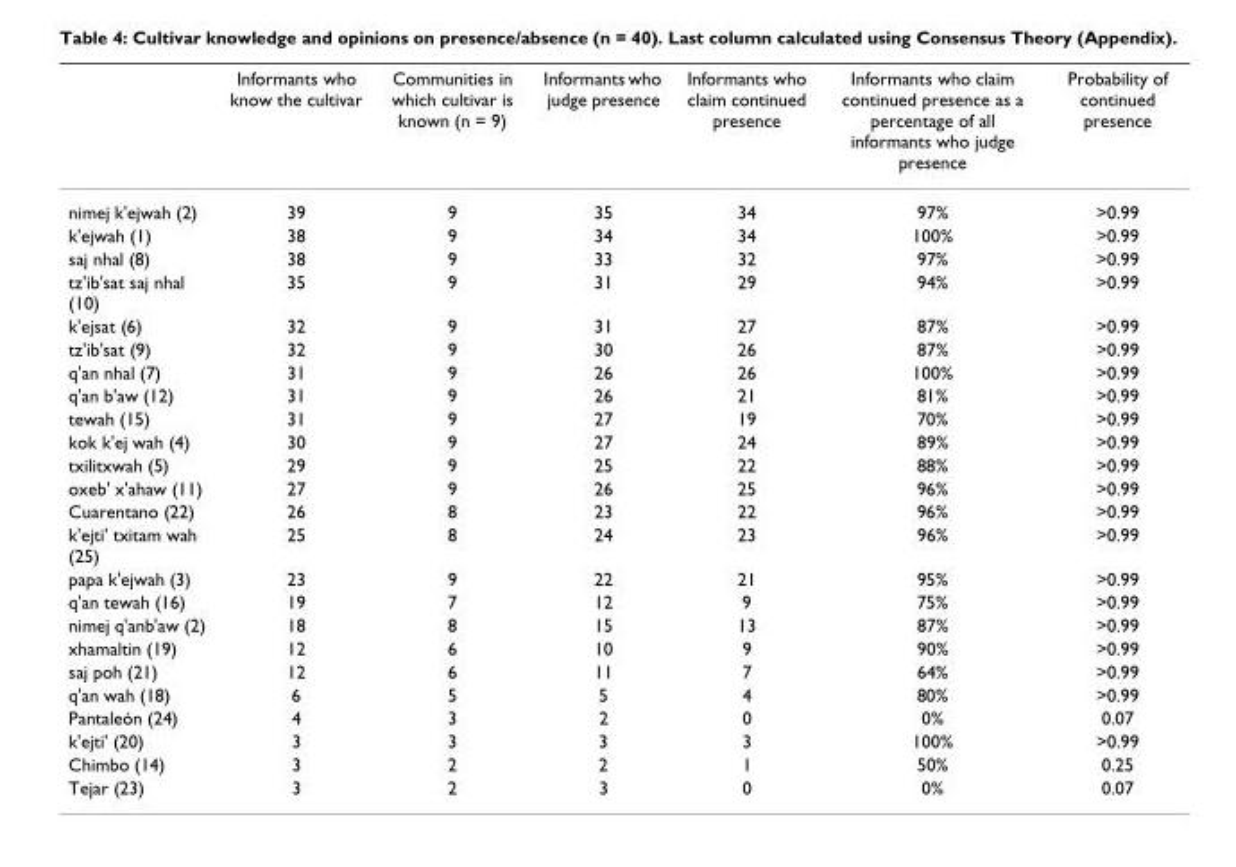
<table><thead><tr><td></td><td>Informants who know the cultivar</td><td>Communities in which cultivar is known (n = 9)</td><td>Informants who judge presence</td><td>Informants who claim continued presence</td><td>Informants who claim continued presence as a percentage of all informants who judge presence</td><td>Probability of continued presence</td></tr></thead><tbody><tr><td>nimej k&#x27;ejwah (2)</td><td>39</td><td>9</td><td>35</td><td>34</td><td>97%</td><td>&gt;0.99</td></tr><tr><td>k&#x27;ejwah (1)</td><td>38</td><td>9</td><td>34</td><td>34</td><td>100%</td><td>&gt;0.99</td></tr><tr><td>saj nhal (8)</td><td>38</td><td>9</td><td>33</td><td>32</td><td>97%</td><td>&gt;0.99</td></tr><tr><td>tz&#x27;ib&#x27;sat saj nhal (10)</td><td>35</td><td>9</td><td>31</td><td>29</td><td>94%</td><td>&gt;0.99</td></tr><tr><td>k&#x27;ejsat (6)</td><td>32</td><td>9</td><td>31</td><td>27</td><td>87%</td><td>&gt;0.99</td></tr><tr><td>tz&#x27;ib&#x27;sat (9)</td><td>32</td><td>9</td><td>30</td><td>26</td><td>87%</td><td>&gt;0.99</td></tr><tr><td>q&#x27;an nhal (7)</td><td>31</td><td>9</td><td>26</td><td>26</td><td>100%</td><td>&gt;0.99</td></tr><tr><td>q&#x27;an b&#x27;aw (12)</td><td>31</td><td>9</td><td>26</td><td>21</td><td>81%</td><td>&gt;0.99</td></tr><tr><td>tewah (15)</td><td>31</td><td>9</td><td>27</td><td>19</td><td>70%</td><td>&gt;0.99</td></tr><tr><td>kok k&#x27;ej wah (4)</td><td>30</td><td>9</td><td>27</td><td>24</td><td>89%</td><td>&gt;0.99</td></tr><tr><td>txilitxwah (5)</td><td>29</td><td>9</td><td>25</td><td>22</td><td>88%</td><td>&gt;0.99</td></tr><tr><td>oxeb&#x27; x&#x27;ahaw (11)</td><td>27</td><td>9</td><td>26</td><td>25</td><td>96%</td><td>&gt;0.99</td></tr><tr><td>Cuarentano (22)</td><td>26</td><td>8</td><td>23</td><td>22</td><td>96%</td><td>&gt;0.99</td></tr><tr><td>k&#x27;ejti&#x27; txitam wah (25)</td><td>25</td><td>8</td><td>24</td><td>23</td><td>96%</td><td>&gt;0.99</td></tr><tr><td>papa k&#x27;ejwah (3)</td><td>23</td><td>9</td><td>22</td><td>21</td><td>95%</td><td>&gt;0.99</td></tr><tr><td>q&#x27;an tewah (16)</td><td>19</td><td>7</td><td>12</td><td>9</td><td>75%</td><td>&gt;0.99</td></tr><tr><td>nimej q&#x27;anb&#x27;aw (2)</td><td>18</td><td>8</td><td>15</td><td>13</td><td>87%</td><td>&gt;0.99</td></tr><tr><td>xhamaltin (19)</td><td>12</td><td>6</td><td>10</td><td>9</td><td>90%</td><td>&gt;0.99</td></tr><tr><td>saj poh (21)</td><td>12</td><td>6</td><td>11</td><td>7</td><td>64%</td><td>&gt;0.99</td></tr><tr><td>q&#x27;an wah (18)</td><td>6</td><td>5</td><td>5</td><td>4</td><td>80%</td><td>&gt;0.99</td></tr><tr><td>Pantaleón (24)</td><td>4</td><td>3</td><td>2</td><td>0</td><td>0%</td><td>0.07</td></tr><tr><td>k&#x27;ejti&#x27; (20)</td><td>3</td><td>3</td><td>3</td><td>3</td><td>100%</td><td>&gt;0.99</td></tr><tr><td>Chimbo (14)</td><td>3</td><td>2</td><td>2</td><td>1</td><td>50%</td><td>0.25</td></tr><tr><td>Tejar (23)</td><td>3</td><td>2</td><td>3</td><td>0</td><td>0%</td><td>0.07</td></tr></tbody></table>